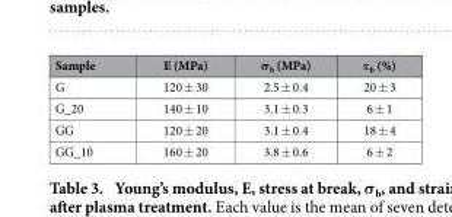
<table><thead><tr><td>Sample</td><td>E (MPa)</td><td>σ<sub>b</sub> (MPa)</td><td>ε<sub>b</sub> (%)</td></tr></thead><tbody><tr><td>G</td><td>120 ± 30</td><td>2.5 ± 0.4</td><td>20 ± 3</td></tr><tr><td>G_20</td><td>140 ± 10</td><td>3.1 ± 0.3</td><td>6 ± 1</td></tr><tr><td>GG</td><td>120 ± 20</td><td>3.1 ± 0.4</td><td>18 ± 4</td></tr><tr><td>GG_10</td><td>160 ± 20</td><td>3.8 ± 0.6</td><td>6 ± 2</td></tr></tbody></table>